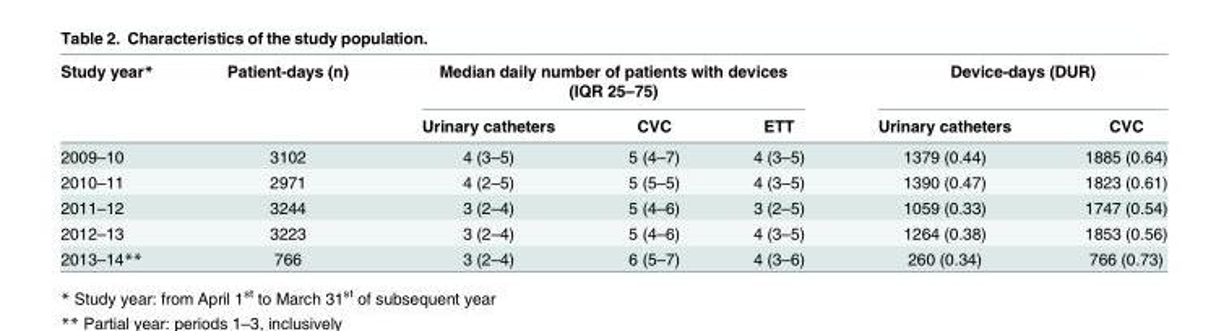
<table><thead><tr><td rowspan="2">Study year*</td><td rowspan="2">Patient-days (n)</td><td colspan="3">Median daily number of patients with devices (IQR 25–75)</td><td colspan="2">Device-days (DUR)</td></tr><tr><td>Urinary catheters</td><td>CVC</td><td>ETT</td><td>Urinary catheters</td><td>CVC</td></tr></thead><tbody><tr><td>2009–10</td><td>3102</td><td>4 (3–5)</td><td>5 (4–7)</td><td>4 (3–5)</td><td>1379 (0.44)</td><td>1885 (0.64)</td></tr><tr><td>2010–11</td><td>2971</td><td>4 (2–5)</td><td>5 (5–5)</td><td>4 (3–5)</td><td>1390 (0.47)</td><td>1823 (0.61)</td></tr><tr><td>2011–12</td><td>3244</td><td>3 (2–4)</td><td>5 (4–6)</td><td>3 (2–5)</td><td>1059 (0.33)</td><td>1747 (0.54)</td></tr><tr><td>2012–13</td><td>3223</td><td>3 (2–4)</td><td>5 (4–6)</td><td>4 (3–5)</td><td>1264 (0.38)</td><td>1853 (0.56)</td></tr><tr><td>2013–14**</td><td>766</td><td>3 (2–4)</td><td>6 (5–7)</td><td>4 (3–6)</td><td>260 (0.34)</td><td>766 (0.73)</td></tr></tbody></table>